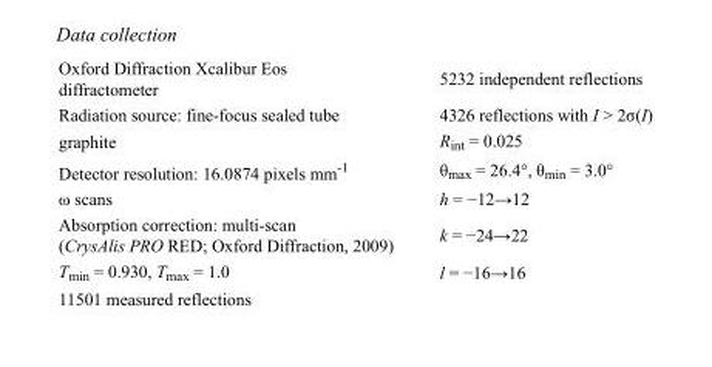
<table><tbody><tr><td>Oxford Diffraction Xcalibur Eos diffractometer</td><td>5232 independent reflections</td></tr><tr><td>Radiation source: fine-focus sealed tube</td><td>4326 reflections with I &gt; 2σ(I)</td></tr><tr><td>graphite</td><td>R<sub>int</sub> = 0.025</td></tr><tr><td>Detector resolution: 16.0874 pixels mm<sup>-1</sup></td><td>θ<sub>max</sub> = 26.4°, θ<sub>min</sub> = 3.0°</td></tr><tr><td>ω scans</td><td>h = −12→12</td></tr><tr><td>Absorption correction: multi-scan (CrysAlis PRO RED; Oxford Diffraction, 2009)</td><td>k = −24→22</td></tr><tr><td>T<sub>min</sub> = 0.930, T<sub>max</sub> = 1.0</td><td>l = −16→16</td></tr><tr><td>11501 measured reflections</td><td></td></tr></tbody></table>